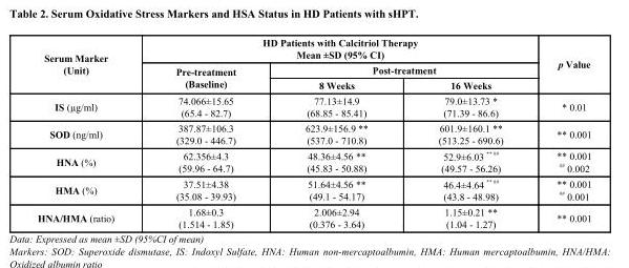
<table><thead><tr><td rowspan="3">Serum Marker (Unit)</td><td colspan="3">HD Patients with Calcitriol Therapy Mean ±SD (95% CI)</td><td rowspan="3">p Value</td></tr><tr><td rowspan="2">Pre-treatment (Baseline)</td><td colspan="2">Post-treatment</td></tr><tr><td>8 Weeks</td><td>16 Weeks</td></tr></thead><tbody><tr><td>IS (µg/ml)</td><td>74.066±15.65 (65.4 - 82.7)</td><td>77.13±14.9 (68.85 - 85.41)</td><td>79.0±13.73 * (71.39 - 86.6)</td><td>* 0.01</td></tr><tr><td>SOD (ng/ml)</td><td>387.87±106.3 (329.0 - 446.7)</td><td>623.9±156.9 ** (537.0 - 710.8)</td><td>601.9±160.1 ** (513.25 - 690.6)</td><td>** 0.001</td></tr><tr><td>HNA (%)</td><td>62.356±4.3 (59.96 - 64.7)</td><td>48.36±4.56 ** (45.83 - 50.88)</td><td>52.9±6.03 <sup>** ##</sup> (49.57 - 56.26)</td><td>** 0.001 <sup>##</sup> 0.002</td></tr><tr><td>HMA (%)</td><td>37.51±4.38 (35.08 - 39.93)</td><td>51.64±4.56 ** (49.1 - 54.17)</td><td>46.4±4.64 <sup>** ##</sup> (43.8 - 48.98)</td><td>** 0.001 <sup>##</sup> 0.001</td></tr><tr><td>HNA/HMA (ratio)</td><td>1.68±0.3 (1.514 - 1.85)</td><td>2.006±2.94 (0.376 - 3.64)</td><td>1.15±0.21 ** (1.04 - 1.27)</td><td>** 0.001</td></tr></tbody></table>